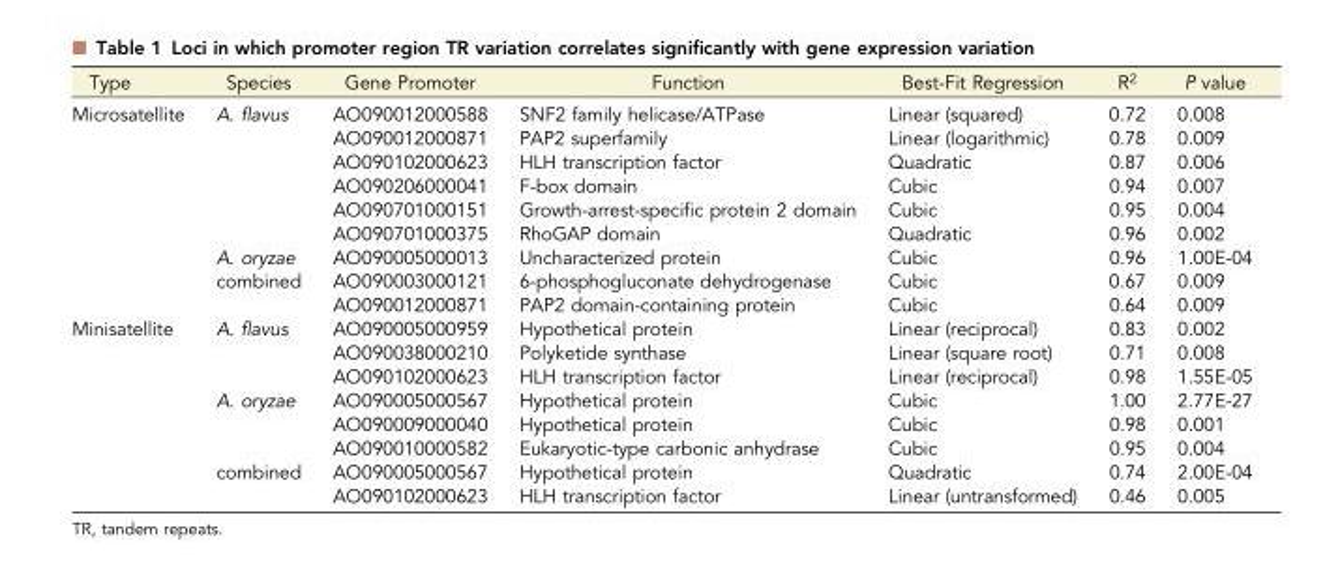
<table><thead><tr><td>Type</td><td>Species</td><td>Gene Promoter</td><td>Function</td><td>Best-Fit Regression</td><td>R<sup>2</sup></td><td>P value</td></tr></thead><tbody><tr><td rowspan="9">Microsatellite</td><td rowspan="6">A. flavus</td><td>AO090012000588</td><td>SNF2 family helicase/ATPase</td><td>Linear (squared)</td><td>0.72</td><td>0.008</td></tr><tr><td>AO090012000871</td><td>PAP2 superfamily</td><td>Linear (logarithmic)</td><td>0.78</td><td>0.009</td></tr><tr><td>AO090102000623</td><td>HLH transcription factor</td><td>Quadratic</td><td>0.87</td><td>0.006</td></tr><tr><td>AO090206000041</td><td>F-box domain</td><td>Cubic</td><td>0.94</td><td>0.007</td></tr><tr><td>AO090701000151</td><td>Growth-arrest-specific protein 2 domain</td><td>Cubic</td><td>0.95</td><td>0.004</td></tr><tr><td>AO090701000375</td><td>RhoGAP domain</td><td>Quadratic</td><td>0.96</td><td>0.002</td></tr><tr><td>A. oryzae</td><td>AO090005000013</td><td>Uncharacterized protein</td><td>Cubic</td><td>0.96</td><td>1.00E-04</td></tr><tr><td rowspan="2">combined</td><td>AO090003000121</td><td>6-phosphogluconate dehydrogenase</td><td>Cubic</td><td>0.67</td><td>0.009</td></tr><tr><td>AO090012000871</td><td>PAP2 domain-containing protein</td><td>Cubic</td><td>0.64</td><td>0.009</td></tr><tr><td rowspan="8">Minisatellite</td><td rowspan="3">A. flavus</td><td>AO090005000959</td><td>Hypothetical protein</td><td>Linear (reciprocal)</td><td>0.83</td><td>0.002</td></tr><tr><td>AO090038000210</td><td>Polyketide synthase</td><td>Linear (square root)</td><td>0.71</td><td>0.008</td></tr><tr><td>AO090102000623</td><td>HLH transcription factor</td><td>Linear (reciprocal)</td><td>0.98</td><td>1.55E-05</td></tr><tr><td rowspan="3">A. oryzae</td><td>AO090005000567</td><td>Hypothetical protein</td><td>Cubic</td><td>1.00</td><td>2.77E-27</td></tr><tr><td>AO090009000040</td><td>Hypothetical protein</td><td>Cubic</td><td>0.98</td><td>0.001</td></tr><tr><td>AO090010000582</td><td>Eukaryotic-type carbonic anhydrase</td><td>Cubic</td><td>0.95</td><td>0.004</td></tr><tr><td rowspan="2">combined</td><td>AO090005000567</td><td>Hypothetical protein</td><td>Quadratic</td><td>0.74</td><td>2.00E-04</td></tr><tr><td>AO090102000623</td><td>HLH transcription factor</td><td>Linear (untransformed)</td><td>0.46</td><td>0.005</td></tr></tbody></table>